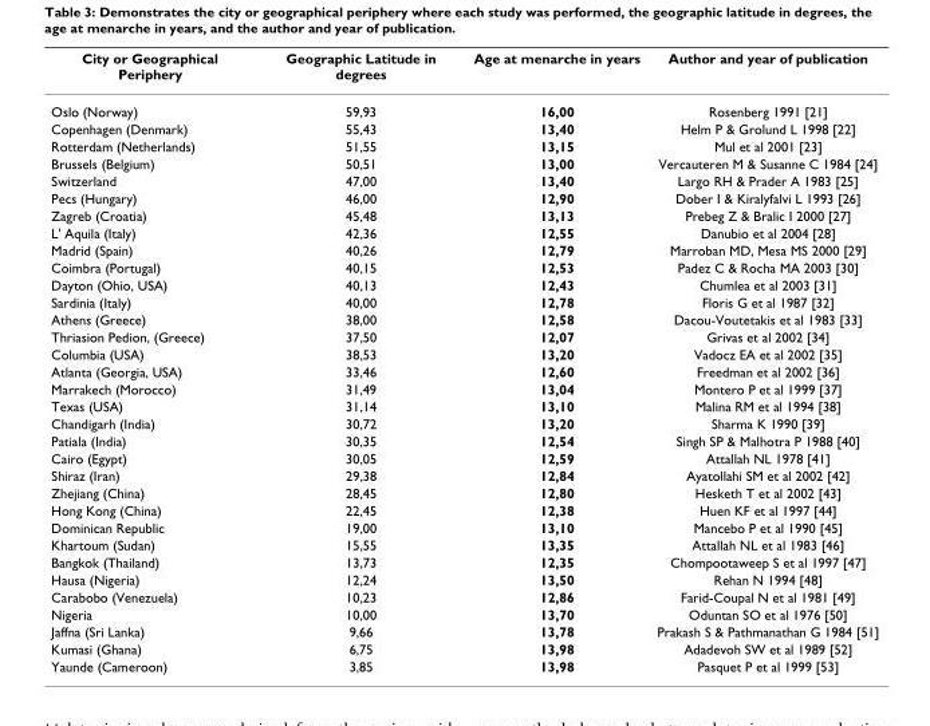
<table><thead><tr><td>City or Geographical Periphery</td><td>Geographic Latitude in degrees</td><td>Age at menarche in years</td><td>Author and year of publication</td></tr></thead><tbody><tr><td>Oslo (Norway)</td><td>59,93</td><td>16,00</td><td>Rosenberg 1991 [21]</td></tr><tr><td>Copenhagen (Denmark)</td><td>55,43</td><td>13,40</td><td>Helm P &amp; Grolund L 1998 [22]</td></tr><tr><td>Rotterdam (Netherlands)</td><td>51,55</td><td>13,15</td><td>Mul et al 2001 [23]</td></tr><tr><td>Brussels (Belgium)</td><td>50,51</td><td>13,00</td><td>Vercauteren M &amp; Susanne C 1984 [24]</td></tr><tr><td>Switzerland</td><td>47,00</td><td>13,40</td><td>Largo RH &amp; Prader A 1983 [25]</td></tr><tr><td>Pecs (Hungary)</td><td>46,00</td><td>12,90</td><td>Dober I &amp; Kiralyfalvi L 1993 [26]</td></tr><tr><td>Zagreb (Croatia)</td><td>45,48</td><td>13,13</td><td>Prebeg Z &amp; Bralic I 2000 [27]</td></tr><tr><td>L&#x27; Aquila (Italy)</td><td>42,36</td><td>12,55</td><td>Danubio et al 2004 [28]</td></tr><tr><td>Madrid (Spain)</td><td>40,26</td><td>12,79</td><td>Marroban MD, Mesa MS 2000 [29]</td></tr><tr><td>Coimbra (Portugal)</td><td>40,15</td><td>12,53</td><td>Padez C &amp; Rocha MA 2003 [30]</td></tr><tr><td>Dayton (Ohio, USA)</td><td>40,13</td><td>12,43</td><td>Chumlea et al 2003 [31]</td></tr><tr><td>Sardinia (Italy)</td><td>40,00</td><td>12,78</td><td>Floris G et al 1987 [32]</td></tr><tr><td>Athens (Greece)</td><td>38,00</td><td>12,58</td><td>Dacou-Voutetakis et al 1983 [33]</td></tr><tr><td>Thriasion Pedion, (Greece)</td><td>37,50</td><td>12,07</td><td>Grivas et al 2002 [34]</td></tr><tr><td>Columbia (USA)</td><td>38,53</td><td>13,20</td><td>Vadocz EA et al 2002 [35]</td></tr><tr><td>Atlanta (Georgia, USA)</td><td>33,46</td><td>12,60</td><td>Freedman et al 2002 [36]</td></tr><tr><td>Marrakech (Morocco)</td><td>31,49</td><td>13,04</td><td>Montero P et al 1999 [37]</td></tr><tr><td>Texas (USA)</td><td>31,14</td><td>13,10</td><td>Malina RM et al 1994 [38]</td></tr><tr><td>Chandigarh (India)</td><td>30,72</td><td>13,20</td><td>Sharma K 1990 [39]</td></tr><tr><td>Patiala (India)</td><td>30,35</td><td>12,54</td><td>Singh SP &amp; Malhotra P 1988 [40]</td></tr><tr><td>Cairo (Egypt)</td><td>30,05</td><td>12,59</td><td>Attallah NL 1978 [41]</td></tr><tr><td>Shiraz (Iran)</td><td>29,38</td><td>12,84</td><td>Ayatollahi SM et al 2002 [42]</td></tr><tr><td>Zhejiang (China)</td><td>28,45</td><td>12,80</td><td>Hesketh T et al 2002 [43]</td></tr><tr><td>Hong Kong (China)</td><td>22,45</td><td>12,38</td><td>Huen KF et al 1997 [44]</td></tr><tr><td>Dominican Republic</td><td>19,00</td><td>13,10</td><td>Mancebo P et al 1990 [45]</td></tr><tr><td>Khartoum (Sudan)</td><td>15,55</td><td>13,35</td><td>Attallah NL et al 1983 [46]</td></tr><tr><td>Bangkok (Thailand)</td><td>13,73</td><td>12,35</td><td>Chompootaweep S et al 1997 [47]</td></tr><tr><td>Hausa (Nigeria)</td><td>12,24</td><td>13,50</td><td>Rehan N 1994 [48]</td></tr><tr><td>Carabobo (Venezuela)</td><td>10,23</td><td>12,86</td><td>Farid-Coupal N et al 1981 [49]</td></tr><tr><td>Nigeria</td><td>10,00</td><td>13,70</td><td>Oduntan SO et al 1976 [50]</td></tr><tr><td>Jaffna (Sri Lanka)</td><td>9,66</td><td>13,78</td><td>Prakash S &amp; Pathmanathan G 1984 [51]</td></tr><tr><td>Kumasi (Ghana)</td><td>6,75</td><td>13,98</td><td>Adadevoh SW et al 1989 [52]</td></tr><tr><td>Yaunde (Cameroon)</td><td>3,85</td><td>13,98</td><td>Pasquet P et al 1999 [53]</td></tr></tbody></table>